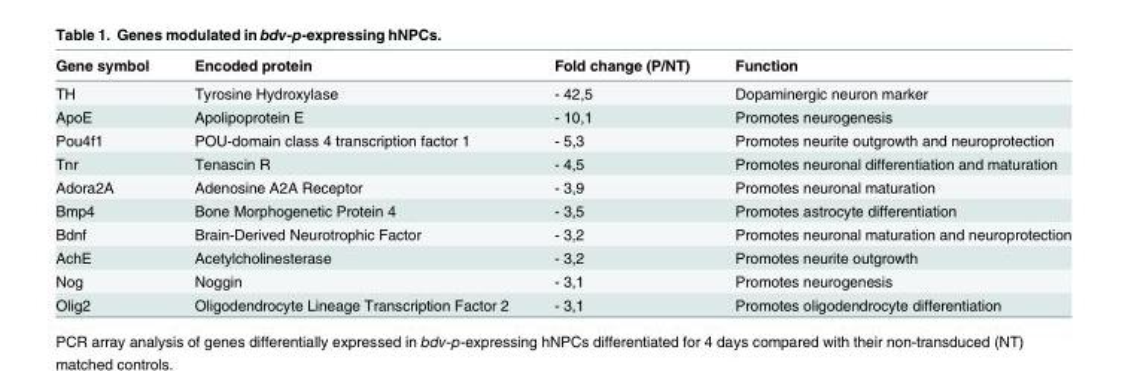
<table><thead><tr><td>Gene symbol</td><td>Encoded protein</td><td>Fold change (P/NT)</td><td>Function</td></tr></thead><tbody><tr><td>TH</td><td>Tyrosine Hydroxylase</td><td>- 42,5</td><td>Dopaminergic neuron marker</td></tr><tr><td>ApoE</td><td>Apolipoprotein E</td><td>- 10,1</td><td>Promotes neurogenesis</td></tr><tr><td>Pou4f1</td><td>POU-domain class 4 transcription factor 1</td><td>- 5,3</td><td>Promotes neurite outgrowth and neuroprotection</td></tr><tr><td>Tnr</td><td>Tenascin R</td><td>- 4,5</td><td>Promotes neuronal differentiation and maturation</td></tr><tr><td>Adora2A</td><td>Adenosine A2A Receptor</td><td>- 3,9</td><td>Promotes neuronal maturation</td></tr><tr><td>Bmp4</td><td>Bone Morphogenetic Protein 4</td><td>- 3,5</td><td>Promotes astrocyte differentiation</td></tr><tr><td>Bdnf</td><td>Brain-Derived Neurotrophic Factor</td><td>- 3,2</td><td>Promotes neuronal maturation and neuroprotection</td></tr><tr><td>AchE</td><td>Acetylcholinesterase</td><td>- 3,2</td><td>Promotes neurite outgrowth</td></tr><tr><td>Nog</td><td>Noggin</td><td>- 3,1</td><td>Promotes neurogenesis</td></tr><tr><td>Olig2</td><td>Oligodendrocyte Lineage Transcription Factor 2</td><td>- 3,1</td><td>Promotes oligodendrocyte differentiation</td></tr></tbody></table>